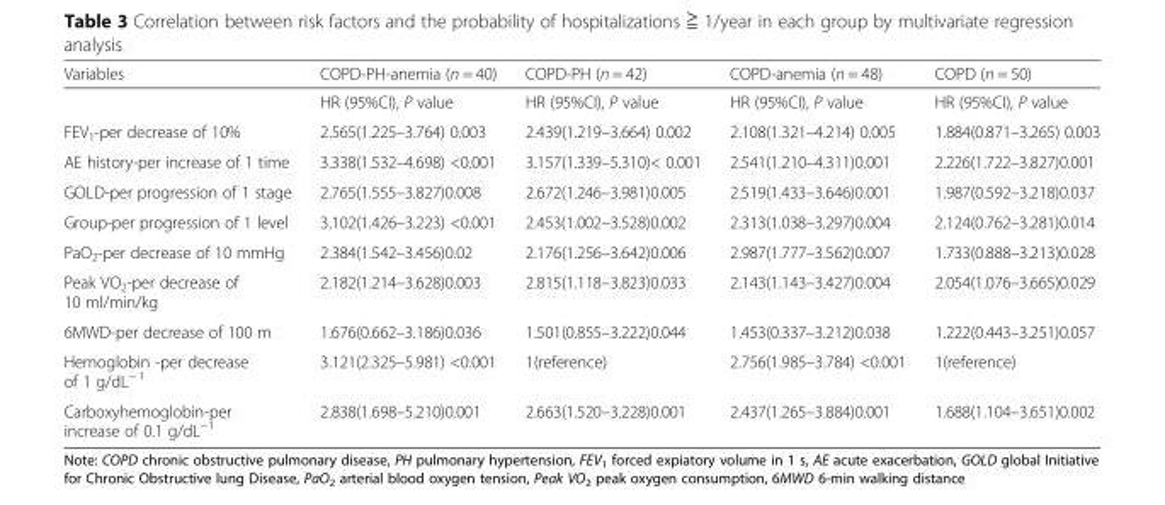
<table><thead><tr><td>Variables</td><td>COPD-PH-anemia (n = 40)</td><td>COPD-PH (n = 42)</td><td>COPD-anemia (n = 48)</td><td>COPD (n = 50)</td></tr></thead><tbody><tr><td></td><td>HR (95%CI), P value</td><td>HR (95%CI), P value</td><td>HR (95%CI), P value</td><td>HR (95%CI), P value</td></tr><tr><td>FEV<sub>1</sub>-per decrease of 10%</td><td>2.565(1.225–3.764) 0.003</td><td>2.439(1.219–3.664) 0.002</td><td>2.108(1.321–4.214) 0.005</td><td>1.884(0.871–3.265) 0.003</td></tr><tr><td>AE history-per increase of 1 time</td><td>3.338(1.532–4.698) &lt;0.001</td><td>3.157(1.339–5.310)&lt; 0.001</td><td>2.541(1.210–4.311)0.001</td><td>2.226(1.722–3.827)0.001</td></tr><tr><td>GOLD-per progression of 1 stage</td><td>2.765(1.555–3.827)0.008</td><td>2.672(1.246–3.981)0.005</td><td>2.519(1.433–3.646)0.001</td><td>1.987(0.592–3.218)0.037</td></tr><tr><td>Group-per progression of 1 level</td><td>3.102(1.426–3.223) &lt;0.001</td><td>2.453(1.002–3.528)0.002</td><td>2.313(1.038–3.297)0.004</td><td>2.124(0.762–3.281)0.014</td></tr><tr><td>PaO<sub>2</sub>-per decrease of 10 mmHg</td><td>2.384(1.542–3.456)0.02</td><td>2.176(1.256–3.642)0.006</td><td>2.987(1.777–3.562)0.007</td><td>1.733(0.888–3.213)0.028</td></tr><tr><td>Peak VO<sub>2</sub>-per decrease of 10 ml/min/kg</td><td>2.182(1.214–3.628)0.003</td><td>2.815(1.118–3.823)0.033</td><td>2.143(1.143–3.427)0.004</td><td>2.054(1.076–3.665)0.029</td></tr><tr><td>6MWD-per decrease of 100 m</td><td>1.676(0.662–3.186)0.036</td><td>1.501(0.855–3.222)0.044</td><td>1.453(0.337–3.212)0.038</td><td>1.222(0.443–3.251)0.057</td></tr><tr><td>Hemoglobin -per decrease of 1 g/dL<sup>− 1</sup></td><td>3.121(2.325–5.981) &lt;0.001</td><td>1(reference)</td><td>2.756(1.985–3.784) &lt;0.001</td><td>1(reference)</td></tr><tr><td>Carboxyhemoglobin-per increase of 0.1 g/dL<sup>−1</sup></td><td>2.838(1.698–5.210)0.001</td><td>2.663(1.520–3.228)0.001</td><td>2.437(1.265–3.884)0.001</td><td>1.688(1.104–3.651)0.002</td></tr></tbody></table>